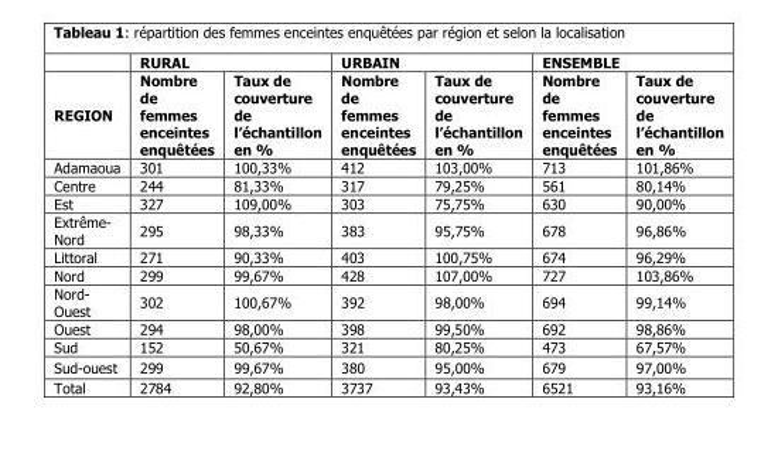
<table><thead><tr><td rowspan="2">REGION</td><td colspan="2">RURAL</td><td colspan="2">URBAIN</td><td colspan="2">ENSEMBLE</td></tr><tr><td>Nombre de femmes enceintes enquêtées</td><td>Taux de couverture de l’échantillon en %</td><td>Nombre de femmes enceintes enquêtées</td><td>Taux de couverture de l’échantillon en %</td><td>Nombre de femmes enceintes enquêtées</td><td>Taux de couverture de l’échantillon en %</td></tr></thead><tbody><tr><td>Adamaoua</td><td>301</td><td>100,33%</td><td>412</td><td>103,00%</td><td>713</td><td>101,86%</td></tr><tr><td>Centre</td><td>244</td><td>81,33%</td><td>317</td><td>79,25%</td><td>561</td><td>80,14%</td></tr><tr><td>Est</td><td>327</td><td>109,00%</td><td>303</td><td>75,75%</td><td>630</td><td>90,00%</td></tr><tr><td>Extrême- Nord</td><td>295</td><td>98,33%</td><td>383</td><td>95,75%</td><td>678</td><td>96,86%</td></tr><tr><td>Littoral</td><td>271</td><td>90,33%</td><td>403</td><td>100,75%</td><td>674</td><td>96,29%</td></tr><tr><td>Nord</td><td>299</td><td>99,67%</td><td>428</td><td>107,00%</td><td>727</td><td>103,86%</td></tr><tr><td>Nord- Ouest</td><td>302</td><td>100,67%</td><td>392</td><td>98,00%</td><td>694</td><td>99,14%</td></tr><tr><td>Ouest</td><td>294</td><td>98,00%</td><td>398</td><td>99,50%</td><td>692</td><td>98,86%</td></tr><tr><td>Sud</td><td>152</td><td>50,67%</td><td>321</td><td>80,25%</td><td>473</td><td>67,57%</td></tr><tr><td>Sud-ouest</td><td>299</td><td>99,67%</td><td>380</td><td>95,00%</td><td>679</td><td>97,00%</td></tr><tr><td>Total</td><td>2784</td><td>92,80%</td><td>3737</td><td>93,43%</td><td>6521</td><td>93,16%</td></tr></tbody></table>